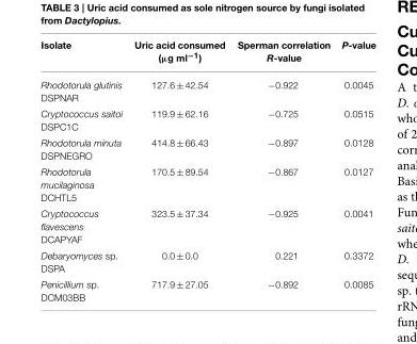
<table><thead><tr><td>Isolate</td><td>Uric acid consumed (µg ml<sup>−1</sup>)</td><td>Sperman correlation R-value</td><td>P-value</td></tr></thead><tbody><tr><td>Rhodotorula glutinis DSPNAR</td><td>127.6 ± 42.54</td><td>−0.922</td><td>0.0045</td></tr><tr><td>Cryptococcus saitoi DSPC1C</td><td>119.9 ± 62.16</td><td>−0.725</td><td>0.0515</td></tr><tr><td>Rhodotorula minuta DSPNEGRO</td><td>414.8 ± 66.43</td><td>−0.897</td><td>0.0128</td></tr><tr><td>Rhodotorula mucilaginosa DCHTL5</td><td>170.5 ± 89.54</td><td>−0.867</td><td>0.0127</td></tr><tr><td>Cryptococcus flavescens DCAPYAF</td><td>323.5 ± 37.34</td><td>−0.925</td><td>0.0041</td></tr><tr><td>Debaryomyces sp. DSPA</td><td>0.0 ± 0.0</td><td>0.221</td><td>0.3372</td></tr><tr><td>Penicillium sp. DCM03BB</td><td>717.9 ± 27.05</td><td>−0.892</td><td>0.0085</td></tr></tbody></table>